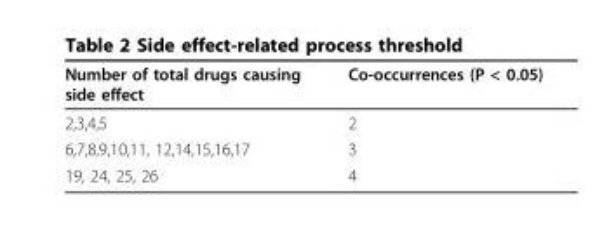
<table><thead><tr><td>Number of total drugs causing side effect</td><td>Co-occurrences (P &lt; 0.05)</td></tr></thead><tbody><tr><td>2,3,4,5</td><td>2</td></tr><tr><td>6,7,8,9,10,11, 12,14,15,16,17</td><td>3</td></tr><tr><td>19, 24, 25, 26</td><td>4</td></tr></tbody></table>